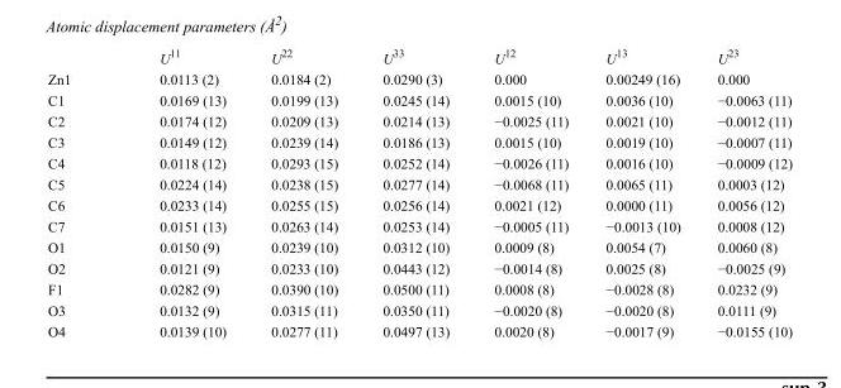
<table><thead><tr><td></td><td>U<sup>11</sup></td><td>U<sup>22</sup></td><td>U<sup>33</sup></td><td>U<sup>12</sup></td><td>U<sup>13</sup></td><td>U<sup>23</sup></td></tr></thead><tbody><tr><td>Zn1</td><td>0.0113 (2)</td><td>0.0184 (2)</td><td>0.0290 (3)</td><td>0.000</td><td>0.00249 (16)</td><td>0.000</td></tr><tr><td>C1</td><td>0.0169 (13)</td><td>0.0199 (13)</td><td>0.0245 (14)</td><td>0.0015 (10)</td><td>0.0036 (10)</td><td>−0.0063 (11)</td></tr><tr><td>C2</td><td>0.0174 (12)</td><td>0.0209 (13)</td><td>0.0214 (13)</td><td>−0.0025 (11)</td><td>0.0021 (10)</td><td>−0.0012 (11)</td></tr><tr><td>C3</td><td>0.0149 (12)</td><td>0.0239 (14)</td><td>0.0186 (13)</td><td>0.0015 (10)</td><td>0.0019 (10)</td><td>−0.0007 (11)</td></tr><tr><td>C4</td><td>0.0118 (12)</td><td>0.0293 (15)</td><td>0.0252 (14)</td><td>−0.0026 (11)</td><td>0.0016 (10)</td><td>−0.0009 (12)</td></tr><tr><td>C5</td><td>0.0224 (14)</td><td>0.0238 (15)</td><td>0.0277 (14)</td><td>−0.0068 (11)</td><td>0.0065 (11)</td><td>0.0003 (12)</td></tr><tr><td>C6</td><td>0.0233 (14)</td><td>0.0255 (15)</td><td>0.0256 (14)</td><td>0.0021 (12)</td><td>0.0000 (11)</td><td>0.0056 (12)</td></tr><tr><td>C7</td><td>0.0151 (13)</td><td>0.0263 (14)</td><td>0.0253 (14)</td><td>−0.0005 (11)</td><td>−0.0013 (10)</td><td>0.0008 (12)</td></tr><tr><td>O1</td><td>0.0150 (9)</td><td>0.0239 (10)</td><td>0.0312 (10)</td><td>0.0009 (8)</td><td>0.0054 (7)</td><td>0.0060 (8)</td></tr><tr><td>O2</td><td>0.0121 (9)</td><td>0.0233 (10)</td><td>0.0443 (12)</td><td>−0.0014 (8)</td><td>0.0025 (8)</td><td>−0.0025 (9)</td></tr><tr><td>F1</td><td>0.0282 (9)</td><td>0.0390 (10)</td><td>0.0500 (11)</td><td>0.0008 (8)</td><td>−0.0028 (8)</td><td>0.0232 (9)</td></tr><tr><td>O3</td><td>0.0132 (9)</td><td>0.0315 (11)</td><td>0.0350 (11)</td><td>−0.0020 (8)</td><td>−0.0020 (8)</td><td>0.0111 (9)</td></tr><tr><td>O4</td><td>0.0139 (10)</td><td>0.0277 (11)</td><td>0.0497 (13)</td><td>0.0020 (8)</td><td>−0.0017 (9)</td><td>−0.0155 (10)</td></tr></tbody></table>